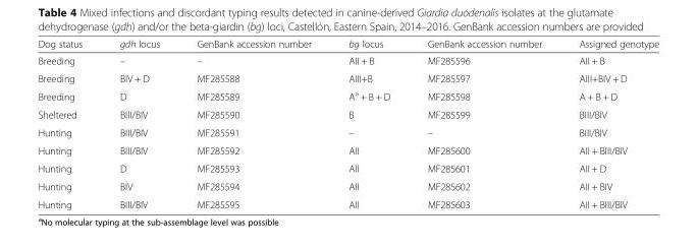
<table><thead><tr><td>Dog status</td><td>gdh locus</td><td>GenBank accession number</td><td>bg locus</td><td>GenBank accession number</td><td>Assigned genotype</td></tr></thead><tbody><tr><td>Breeding</td><td>–</td><td>–</td><td>AII + B</td><td>MF285596</td><td>AII + B</td></tr><tr><td>Breeding</td><td>BIV + D</td><td>MF285588</td><td>AIII+B</td><td>MF285597</td><td>AIII+BIV + D</td></tr><tr><td>Breeding</td><td>D</td><td>MF285589</td><td>A<sup>a</sup> + B + D</td><td>MF285598</td><td>A + B + D</td></tr><tr><td>Sheltered</td><td>BIII/BIV</td><td>MF285590</td><td>B</td><td>MF285599</td><td>BIII/BIV</td></tr><tr><td>Hunting</td><td>BIII/BIV</td><td>MF285591</td><td>–</td><td>–</td><td>BIII/BIV</td></tr><tr><td>Hunting</td><td>BIII/BIV</td><td>MF285592</td><td>AII</td><td>MF285600</td><td>AII + BIII/BIV</td></tr><tr><td>Hunting</td><td>D</td><td>MF285593</td><td>AII</td><td>MF285601</td><td>AII + D</td></tr><tr><td>Hunting</td><td>BIV</td><td>MF285594</td><td>AII</td><td>MF285602</td><td>AII + BIV</td></tr><tr><td>Hunting</td><td>BIII/BIV</td><td>MF285595</td><td>AII</td><td>MF285603</td><td>AII + BIII/BIV</td></tr></tbody></table>